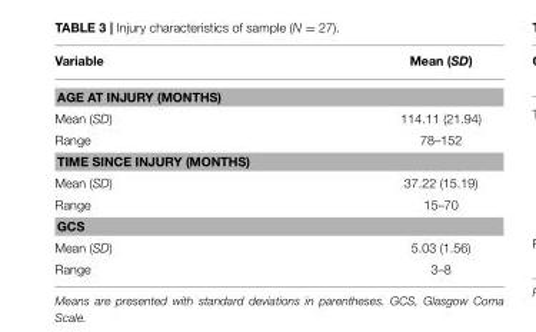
<table><thead><tr><td>Variable</td><td>Mean (SD)</td></tr></thead><tbody><tr><td colspan="2">AGE AT INJURY (MONTHS)</td></tr><tr><td>Mean (SD)</td><td>114.11 (21.94)</td></tr><tr><td>Range</td><td>78–152</td></tr><tr><td colspan="2">TIME SINCE INJURY (MONTHS)</td></tr><tr><td>Mean (SD)</td><td>37.22 (15.19)</td></tr><tr><td>Range</td><td>15–70</td></tr><tr><td colspan="2">GCS</td></tr><tr><td>Mean (SD)</td><td>5.03 (1.56)</td></tr><tr><td>Range</td><td>3–8</td></tr></tbody></table>